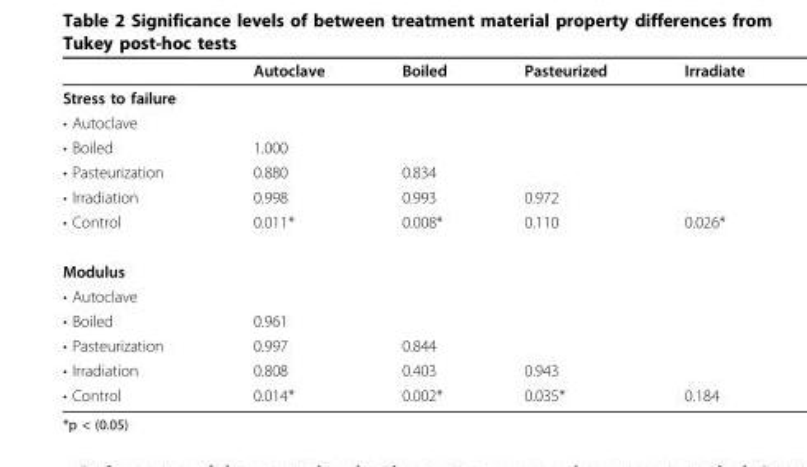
<table><thead><tr><td></td><td>Autoclave</td><td>Boiled</td><td>Pasteurized</td><td>Irradiate</td></tr></thead><tbody><tr><td colspan="5">Stress to failure</td></tr><tr><td colspan="5">• Autoclave</td></tr><tr><td>• Boiled</td><td>1.000</td><td></td><td></td><td></td></tr><tr><td>• Pasteurization</td><td>0.880</td><td>0.834</td><td></td><td></td></tr><tr><td>• Irradiation</td><td>0.998</td><td>0.993</td><td>0.972</td><td></td></tr><tr><td>• Control</td><td>0.011*</td><td>0.008*</td><td>0.110</td><td>0.026*</td></tr><tr><td colspan="5">Modulus</td></tr><tr><td colspan="5">• Autoclave</td></tr><tr><td>• Boiled</td><td>0.961</td><td></td><td></td><td></td></tr><tr><td>• Pasteurization</td><td>0.997</td><td>0.844</td><td></td><td></td></tr><tr><td>• Irradiation</td><td>0.808</td><td>0.403</td><td>0.943</td><td></td></tr><tr><td>• Control</td><td>0.014*</td><td>0.002*</td><td>0.035*</td><td>0.184</td></tr></tbody></table>